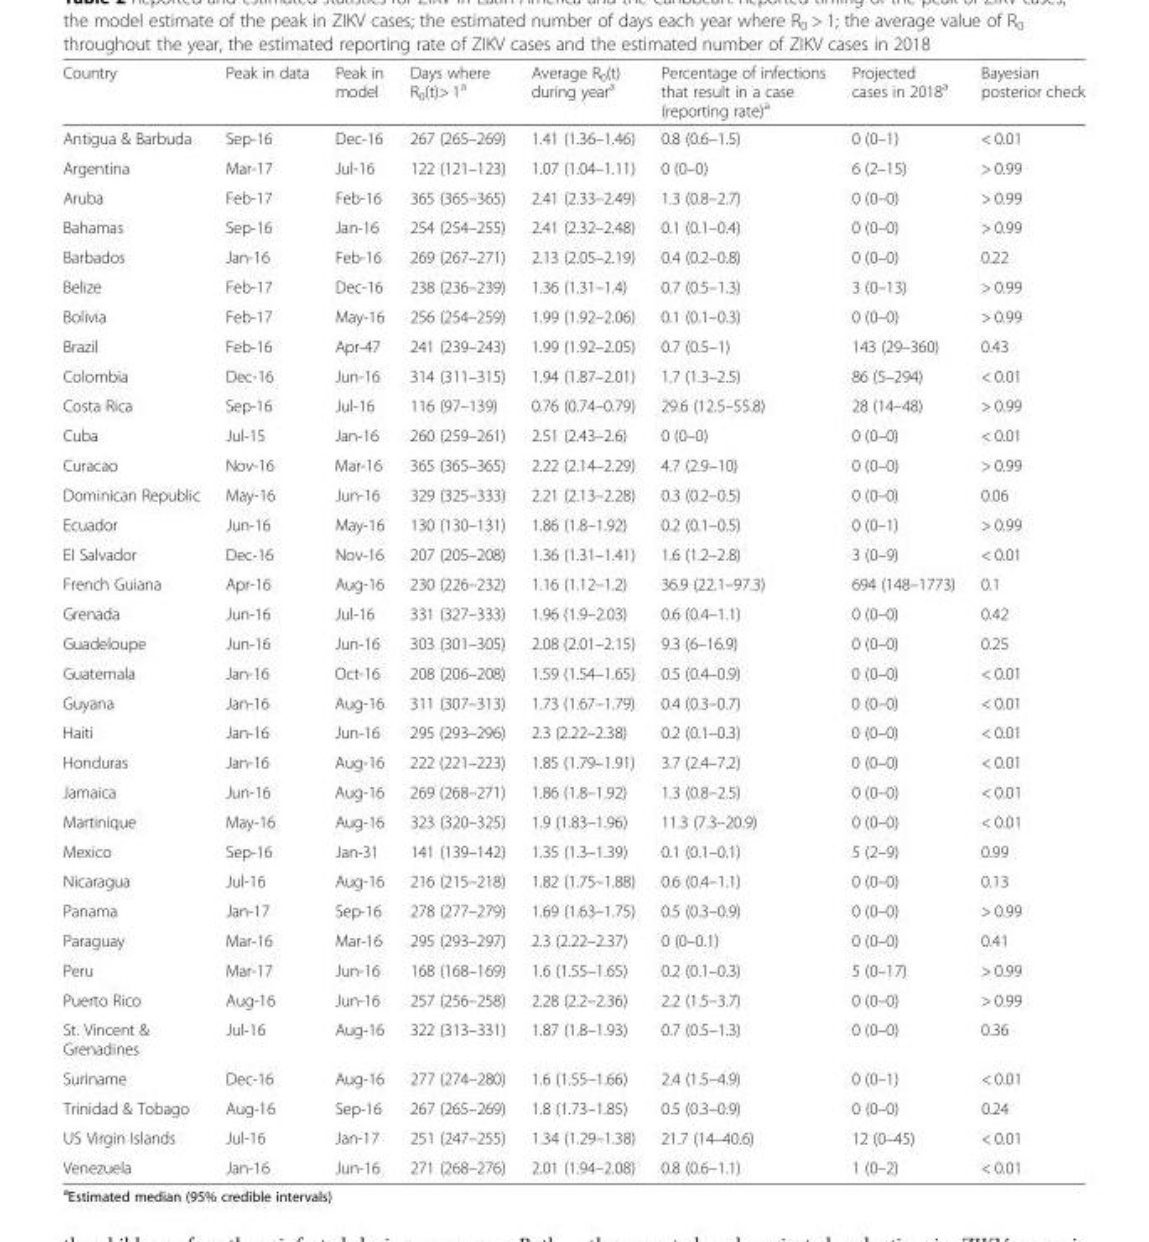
<table><thead><tr><td>Country</td><td>Peak in data</td><td>Peak in model</td><td>Days where R<sub>0</sub>(t)&gt; 1<sup>a</sup></td><td>Average R<sub>0</sub>(t) during year<sup>a</sup></td><td>Percentage of infections that result in a case (reporting rate)<sup>a</sup></td><td>Projected cases in 2018<sup>a</sup></td><td>Bayesian posterior check</td></tr></thead><tbody><tr><td>Antigua &amp; Barbuda</td><td>Sep-16</td><td>Dec-16</td><td>267 (265–269)</td><td>1.41 (1.36–1.46)</td><td>0.8 (0.6–1.5)</td><td>0 (0–1)</td><td>&lt; 0.01</td></tr><tr><td>Argentina</td><td>Mar-17</td><td>Jul-16</td><td>122 (121–123)</td><td>1.07 (1.04–1.11)</td><td>0 (0–0)</td><td>6 (2–15)</td><td>&gt; 0.99</td></tr><tr><td>Aruba</td><td>Feb-17</td><td>Feb-16</td><td>365 (365–365)</td><td>2.41 (2.33–2.49)</td><td>1.3 (0.8–2.7)</td><td>0 (0–0)</td><td>&gt; 0.99</td></tr><tr><td>Bahamas</td><td>Sep-16</td><td>Jan-16</td><td>254 (254–255)</td><td>2.41 (2.32–2.48)</td><td>0.1 (0.1–0.4)</td><td>0 (0–0)</td><td>&gt; 0.99</td></tr><tr><td>Barbados</td><td>Jan-16</td><td>Feb-16</td><td>269 (267–271)</td><td>2.13 (2.05–2.19)</td><td>0.4 (0.2–0.8)</td><td>0 (0–0)</td><td>0.22</td></tr><tr><td>Belize</td><td>Feb-17</td><td>Dec-16</td><td>238 (236–239)</td><td>1.36 (1.31–1.4)</td><td>0.7 (0.5–1.3)</td><td>3 (0–13)</td><td>&gt; 0.99</td></tr><tr><td>Bolivia</td><td>Feb-17</td><td>May-16</td><td>256 (254–259)</td><td>1.99 (1.92–2.06)</td><td>0.1 (0.1–0.3)</td><td>0 (0–0)</td><td>&gt; 0.99</td></tr><tr><td>Brazil</td><td>Feb-16</td><td>Apr-47</td><td>241 (239–243)</td><td>1.99 (1.92–2.05)</td><td>0.7 (0.5–1)</td><td>143 (29–360)</td><td>0.43</td></tr><tr><td>Colombia</td><td>Dec-16</td><td>Jun-16</td><td>314 (311–315)</td><td>1.94 (1.87–2.01)</td><td>1.7 (1.3–2.5)</td><td>86 (5–294)</td><td>&lt; 0.01</td></tr><tr><td>Costa Rica</td><td>Sep-16</td><td>Jul-16</td><td>116 (97–139)</td><td>0.76 (0.74–0.79)</td><td>29.6 (12.5–55.8)</td><td>28 (14–48)</td><td>&gt; 0.99</td></tr><tr><td>Cuba</td><td>Jul-15</td><td>Jan-16</td><td>260 (259–261)</td><td>2.51 (2.43–2.6)</td><td>0 (0–0)</td><td>0 (0–0)</td><td>&lt; 0.01</td></tr><tr><td>Curacao</td><td>Nov-16</td><td>Mar-16</td><td>365 (365–365)</td><td>2.22 (2.14–2.29)</td><td>4.7 (2.9–10)</td><td>0 (0–0)</td><td>&gt; 0.99</td></tr><tr><td>Dominican Republic</td><td>May-16</td><td>Jun-16</td><td>329 (325–333)</td><td>2.21 (2.13–2.28)</td><td>0.3 (0.2–0.5)</td><td>0 (0–0)</td><td>0.06</td></tr><tr><td>Ecuador</td><td>Jun-16</td><td>May-16</td><td>130 (130–131)</td><td>1.86 (1.8–1.92)</td><td>0.2 (0.1–0.5)</td><td>0 (0–1)</td><td>&gt; 0.99</td></tr><tr><td>El Salvador</td><td>Dec-16</td><td>Nov-16</td><td>207 (205–208)</td><td>1.36 (1.31–1.41)</td><td>1.6 (1.2–2.8)</td><td>3 (0–9)</td><td>&lt; 0.01</td></tr><tr><td>French Guiana</td><td>Apr-16</td><td>Aug-16</td><td>230 (226–232)</td><td>1.16 (1.12–1.2)</td><td>36.9 (22.1–97.3)</td><td>694 (148–1773)</td><td>0.1</td></tr><tr><td>Grenada</td><td>Jun-16</td><td>Jul-16</td><td>331 (327–333)</td><td>1.96 (1.9–2.03)</td><td>0.6 (0.4–1.1)</td><td>0 (0–0)</td><td>0.42</td></tr><tr><td>Guadeloupe</td><td>Jun-16</td><td>Jun-16</td><td>303 (301–305)</td><td>2.08 (2.01–2.15)</td><td>9.3 (6–16.9)</td><td>0 (0–0)</td><td>0.25</td></tr><tr><td>Guatemala</td><td>Jan-16</td><td>Oct-16</td><td>208 (206–208)</td><td>1.59 (1.54–1.65)</td><td>0.5 (0.4–0.9)</td><td>0 (0–0)</td><td>&lt; 0.01</td></tr><tr><td>Guyana</td><td>Jan-16</td><td>Aug-16</td><td>311 (307–313)</td><td>1.73 (1.67–1.79)</td><td>0.4 (0.3–0.7)</td><td>0 (0–0)</td><td>&lt; 0.01</td></tr><tr><td>Haiti</td><td>Jan-16</td><td>Jun-16</td><td>295 (293–296)</td><td>2.3 (2.22–2.38)</td><td>0.2 (0.1–0.3)</td><td>0 (0–0)</td><td>&lt; 0.01</td></tr><tr><td>Honduras</td><td>Jan-16</td><td>Aug-16</td><td>222 (221–223)</td><td>1.85 (1.79–1.91)</td><td>3.7 (2.4–7.2)</td><td>0 (0–0)</td><td>&lt; 0.01</td></tr><tr><td>Jamaica</td><td>Jun-16</td><td>Aug-16</td><td>269 (268–271)</td><td>1.86 (1.8–1.92)</td><td>1.3 (0.8–2.5)</td><td>0 (0–0)</td><td>&lt; 0.01</td></tr><tr><td>Martinique</td><td>May-16</td><td>Aug-16</td><td>323 (320–325)</td><td>1.9 (1.83–1.96)</td><td>11.3 (7.3–20.9)</td><td>0 (0–0)</td><td>&lt; 0.01</td></tr><tr><td>Mexico</td><td>Sep-16</td><td>Jan-31</td><td>141 (139–142)</td><td>1.35 (1.3–1.39)</td><td>0.1 (0.1–0.1)</td><td>5 (2–9)</td><td>0.99</td></tr><tr><td>Nicaragua</td><td>Jul-16</td><td>Aug-16</td><td>216 (215–218)</td><td>1.82 (1.75–1.88)</td><td>0.6 (0.4–1.1)</td><td>0 (0–0)</td><td>0.13</td></tr><tr><td>Panama</td><td>Jan-17</td><td>Sep-16</td><td>278 (277–279)</td><td>1.69 (1.63–1.75)</td><td>0.5 (0.3–0.9)</td><td>0 (0–0)</td><td>&gt; 0.99</td></tr><tr><td>Paraguay</td><td>Mar-16</td><td>Mar-16</td><td>295 (293–297)</td><td>2.3 (2.22–2.37)</td><td>0 (0–0.1)</td><td>0 (0–0)</td><td>0.41</td></tr><tr><td>Peru</td><td>Mar-17</td><td>Jun-16</td><td>168 (168–169)</td><td>1.6 (1.55–1.65)</td><td>0.2 (0.1–0.3)</td><td>5 (0–17)</td><td>&gt; 0.99</td></tr><tr><td>Puerto Rico</td><td>Aug-16</td><td>Jun-16</td><td>257 (256–258)</td><td>2.28 (2.2–2.36)</td><td>2.2 (1.5–3.7)</td><td>0 (0–0)</td><td>&gt; 0.99</td></tr><tr><td>St. Vincent &amp; Grenadines</td><td>Jul-16</td><td>Aug-16</td><td>322 (313–331)</td><td>1.87 (1.8–1.93)</td><td>0.7 (0.5–1.3)</td><td>0 (0–0)</td><td>0.36</td></tr><tr><td>Suriname</td><td>Dec-16</td><td>Aug-16</td><td>277 (274–280)</td><td>1.6 (1.55–1.66)</td><td>2.4 (1.5–4.9)</td><td>0 (0–1)</td><td>&lt; 0.01</td></tr><tr><td>Trinidad &amp; Tobago</td><td>Aug-16</td><td>Sep-16</td><td>267 (265–269)</td><td>1.8 (1.73–1.85)</td><td>0.5 (0.3–0.9)</td><td>0 (0–0)</td><td>0.24</td></tr><tr><td>US Virgin Islands</td><td>Jul-16</td><td>Jan-17</td><td>251 (247–255)</td><td>1.34 (1.29–1.38)</td><td>21.7 (14–40.6)</td><td>12 (0–45)</td><td>&lt; 0.01</td></tr><tr><td>Venezuela</td><td>Jan-16</td><td>Jun-16</td><td>271 (268–276)</td><td>2.01 (1.94–2.08)</td><td>0.8 (0.6–1.1)</td><td>1 (0–2)</td><td>&lt; 0.01</td></tr></tbody></table>